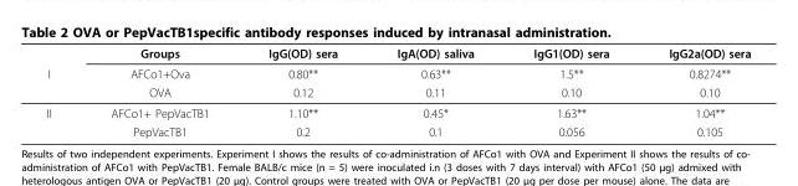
<table><thead><tr><td rowspan="3">I</td><td rowspan="3">Groups AFCo1+Ova OVA</td><td rowspan="3">IgG(OD) sera 0.80** 0.12</td><td rowspan="3">IgA(OD) saliva 0.63** 0.11</td><td rowspan="3">IgG1(OD) sera 1.5** 0.10</td><td rowspan="3">IgG2a(OD) sera 0.8274** 0.10</td></tr><tr></tr><tr></tr></thead><tbody><tr><td rowspan="2">II</td><td>AFCo1+ PepVacTB1</td><td>1.10**</td><td>0.45*</td><td>1.63**</td><td>1.04**</td></tr><tr><td>PepVacTB1</td><td>0.2</td><td>0.1</td><td>0.056</td><td>0.105</td></tr></tbody></table>